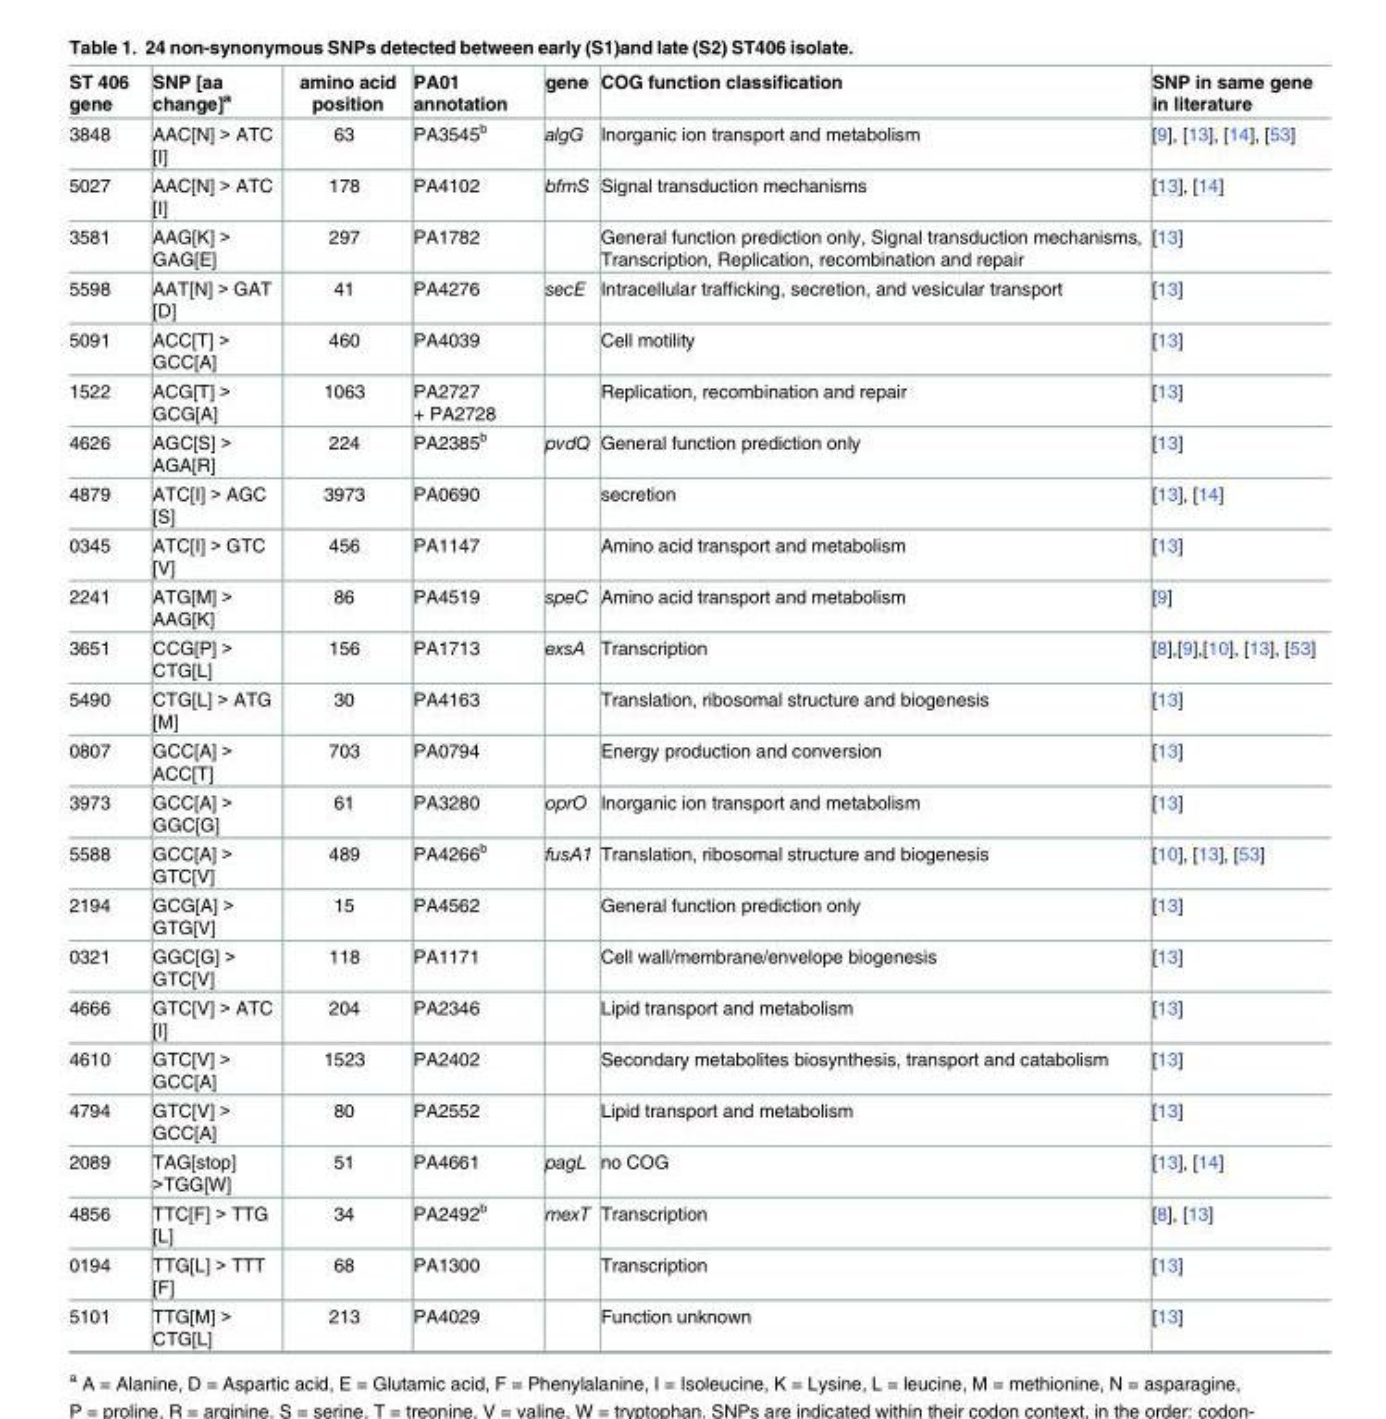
<table><thead><tr><td>ST 406 gene</td><td>SNP [aa change]<sup>a</sup></td><td>amino acid position</td><td>PA01 annotation</td><td>gene</td><td>COG function classification</td><td>SNP in same gene in literature</td></tr></thead><tbody><tr><td>3848</td><td>AAC[N] &gt; ATC [I]</td><td>63</td><td>PA3545<sup>b</sup></td><td>algG</td><td>Inorganic ion transport and metabolism</td><td>[9], [13], [14], [53]</td></tr><tr><td>5027</td><td>AAC[N] &gt; ATC [I]</td><td>178</td><td>PA4102</td><td>bfmS</td><td>Signal transduction mechanisms</td><td>[13], [14]</td></tr><tr><td>3581</td><td>AAG[K] &gt; GAG[E]</td><td>297</td><td>PA1782</td><td></td><td>General function prediction only, Signal transduction mechanisms, Transcription, Replication, recombination and repair</td><td>[13]</td></tr><tr><td>5598</td><td>AAT[N] &gt; GAT [D]</td><td>41</td><td>PA4276</td><td>secE</td><td>Intracellular trafficking, secretion, and vesicular transport</td><td>[13]</td></tr><tr><td>5091</td><td>ACC[T] &gt; GCC[A]</td><td>460</td><td>PA4039</td><td></td><td>Cell motility</td><td>[13]</td></tr><tr><td>1522</td><td>ACG[T] &gt; GCG[A]</td><td>1063</td><td>PA2727 + PA2728</td><td></td><td>Replication, recombination and repair</td><td>[13]</td></tr><tr><td>4626</td><td>AGC[S] &gt; AGA[R]</td><td>224</td><td>PA2385<sup>b</sup></td><td>pvdQ</td><td>General function prediction only</td><td>[13]</td></tr><tr><td>4879</td><td>ATC[I] &gt; AGC [S]</td><td>3973</td><td>PA0690</td><td></td><td>secretion</td><td>[13], [14]</td></tr><tr><td>0345</td><td>ATC[I] &gt; GTC [V]</td><td>456</td><td>PA1147</td><td></td><td>Amino acid transport and metabolism</td><td>[13]</td></tr><tr><td>2241</td><td>ATG[M] &gt; AAG[K]</td><td>86</td><td>PA4519</td><td>speC</td><td>Amino acid transport and metabolism</td><td>[9]</td></tr><tr><td>3651</td><td>CCG[P] &gt; CTG[L]</td><td>156</td><td>PA1713</td><td>exsA</td><td>Transcription</td><td>[8],[9],[10], [13], [53]</td></tr><tr><td>5490</td><td>CTG[L] &gt; ATG [M]</td><td>30</td><td>PA4163</td><td></td><td>Translation, ribosomal structure and biogenesis</td><td>[13]</td></tr><tr><td>0807</td><td>GCC[A] &gt; ACC[T]</td><td>703</td><td>PA0794</td><td></td><td>Energy production and conversion</td><td>[13]</td></tr><tr><td>3973</td><td>GCC[A] &gt; GGC[G]</td><td>61</td><td>PA3280</td><td>oprO</td><td>Inorganic ion transport and metabolism</td><td>[13]</td></tr><tr><td>5588</td><td>GCC[A] &gt; GTC[V]</td><td>489</td><td>PA4266<sup>b</sup></td><td>fusA1</td><td>Translation, ribosomal structure and biogenesis</td><td>[10], [13], [53]</td></tr><tr><td>2194</td><td>GCG[A] &gt; GTG[V]</td><td>15</td><td>PA4562</td><td></td><td>General function prediction only</td><td>[13]</td></tr><tr><td>0321</td><td>GGC[G] &gt; GTC[V]</td><td>118</td><td>PA1171</td><td></td><td>Cell wall/membrane/envelope biogenesis</td><td>[13]</td></tr><tr><td>4666</td><td>GTC[V] &gt; ATC [I]</td><td>204</td><td>PA2346</td><td></td><td>Lipid transport and metabolism</td><td>[13]</td></tr><tr><td>4610</td><td>GTC[V] &gt; GCC[A]</td><td>1523</td><td>PA2402</td><td></td><td>Secondary metabolites biosynthesis, transport and catabolism</td><td>[13]</td></tr><tr><td>4794</td><td>GTC[V] &gt; GCC[A]</td><td>80</td><td>PA2552</td><td></td><td>Lipid transport and metabolism</td><td>[13]</td></tr><tr><td>2089</td><td>TAG[stop] &gt;TGG[W]</td><td>51</td><td>PA4661</td><td>pagL</td><td>no COG</td><td>[13], [14]</td></tr><tr><td>4856</td><td>TTC[F] &gt; TTG [L]</td><td>34</td><td>PA2492<sup>b</sup></td><td>mexT</td><td>Transcription</td><td>[8], [13]</td></tr><tr><td>0194</td><td>TTG[L] &gt; TTT [F]</td><td>68</td><td>PA1300</td><td></td><td>Transcription</td><td>[13]</td></tr><tr><td>5101</td><td>TTG[M] &gt; CTG[L]</td><td>213</td><td>PA4029</td><td></td><td>Function unknown</td><td>[13]</td></tr></tbody></table>